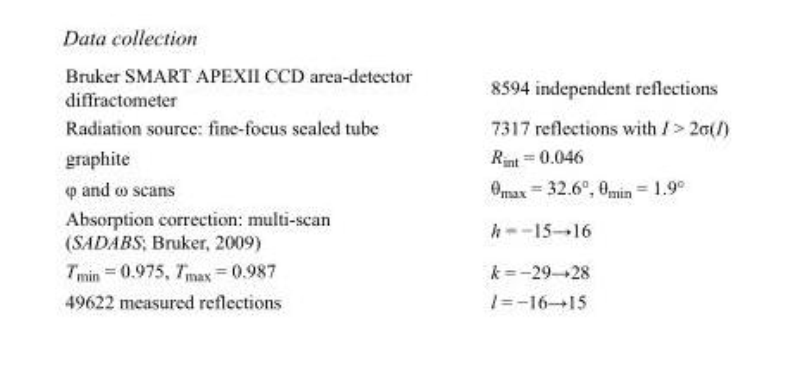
<table><tbody><tr><td>Bruker SMART APEXII CCD area-detector diffractometer</td><td>8594 independent reflections</td></tr><tr><td>Radiation source: fine-focus sealed tube</td><td>7317 reflections with I &gt; 2σ(I)</td></tr><tr><td>graphite</td><td>R<sub>int</sub> = 0.046</td></tr><tr><td>φ and ω scans</td><td>θ<sub>max</sub> = 32.6°, θ<sub>min</sub> = 1.9°</td></tr><tr><td>Absorption correction: multi-scan (SADABS; Bruker, 2009)</td><td>h = −15→16</td></tr><tr><td>T<sub>min</sub> = 0.975, T<sub>max</sub> = 0.987</td><td>k = −29→28</td></tr><tr><td>49622 measured reflections</td><td>l = −16→15</td></tr></tbody></table>